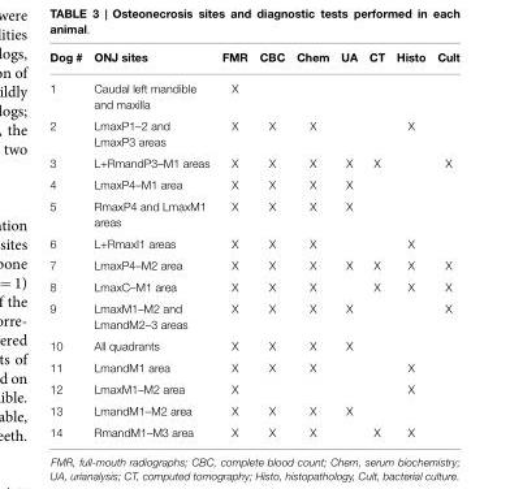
<table><thead><tr><td>Dog #</td><td>ONJ sites</td><td>FMR</td><td>CBC</td><td>Chem</td><td>UA</td><td>CT</td><td>Histo</td><td>Cult</td></tr></thead><tbody><tr><td>1</td><td>Caudal left mandible and maxilla</td><td>X</td><td></td><td></td><td></td><td></td><td></td><td></td></tr><tr><td>2</td><td>LmaxP1–2 and LmaxP3 areas</td><td>X</td><td>X</td><td>X</td><td></td><td></td><td>X</td><td></td></tr><tr><td>3</td><td>L+RmandP3–M1 areas</td><td>X</td><td>X</td><td>X</td><td>X</td><td>X</td><td></td><td>X</td></tr><tr><td>4</td><td>LmaxP4–M1 area</td><td>X</td><td>X</td><td>X</td><td>X</td><td></td><td></td><td></td></tr><tr><td>5</td><td>RmaxP4 and LmaxM1 areas</td><td>X</td><td>X</td><td>X</td><td>X</td><td></td><td></td><td></td></tr><tr><td>6</td><td>L+RmaxI1 areas</td><td>X</td><td>X</td><td>X</td><td></td><td></td><td>X</td><td></td></tr><tr><td>7</td><td>LmaxP4–M2 area</td><td>X</td><td>X</td><td>X</td><td>X</td><td>X</td><td>X</td><td>X</td></tr><tr><td>8</td><td>LmaxC–M1 area</td><td>X</td><td>X</td><td>X</td><td></td><td>X</td><td>X</td><td>X</td></tr><tr><td>9</td><td>LmaxM1–M2 and LmandM2–3 areas</td><td>X</td><td>X</td><td>X</td><td>X</td><td></td><td></td><td>X</td></tr><tr><td>10</td><td>All quadrants</td><td>X</td><td>X</td><td>X</td><td>X</td><td></td><td></td><td></td></tr><tr><td>11</td><td>LmandM1 area</td><td>X</td><td>X</td><td>X</td><td></td><td></td><td>X</td><td></td></tr><tr><td>12</td><td>LmaxM1–M2 area</td><td>X</td><td></td><td></td><td></td><td></td><td>X</td><td></td></tr><tr><td>13</td><td>LmandM1–M2 area</td><td>X</td><td>X</td><td>X</td><td>X</td><td></td><td></td><td></td></tr><tr><td>14</td><td>RmandM1–M3 area</td><td>X</td><td>X</td><td>X</td><td></td><td>X</td><td>X</td><td></td></tr></tbody></table>